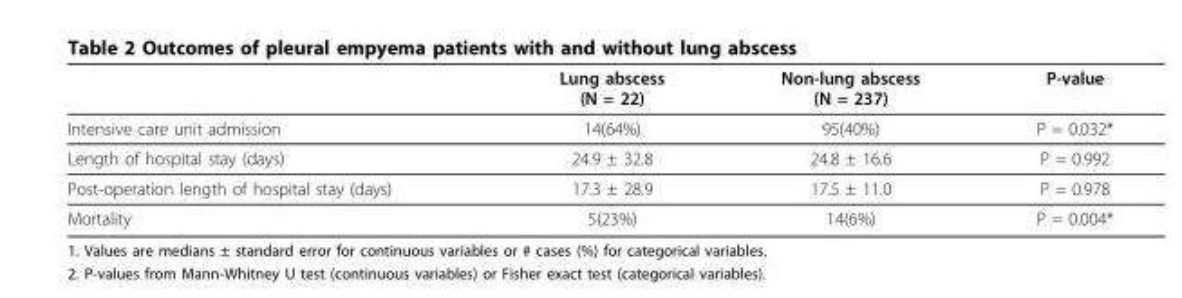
<table><thead><tr><td></td><td>Lung abscess (N = 22)</td><td>Non-lung abscess (N = 237)</td><td>P-value</td></tr></thead><tbody><tr><td>Intensive care unit admission</td><td>14(64%)</td><td>95(40%)</td><td>P = 0.032*</td></tr><tr><td>Length of hospital stay (days)</td><td>24.9 ± 32.8</td><td>24.8 ± 16.6</td><td>P = 0.992</td></tr><tr><td>Post-operation length of hospital stay (days)</td><td>17.3 ± 28.9</td><td>17.5 ± 11.0</td><td>P = 0.978</td></tr><tr><td>Mortality</td><td>5(23%)</td><td>14(6%)</td><td>P = 0.004*</td></tr></tbody></table>